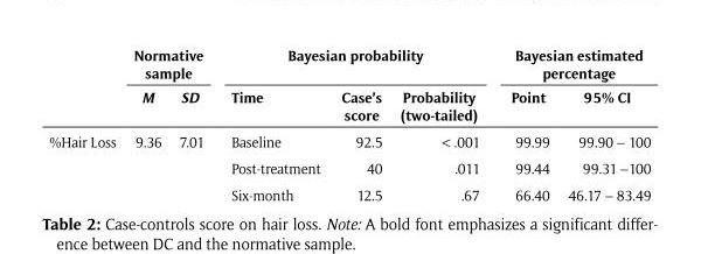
<table><thead><tr><td rowspan="2"></td><td colspan="2">Normative sample</td><td colspan="3">Bayesian probability</td><td colspan="2">Bayesian estimated percentage</td></tr><tr><td>M</td><td>SD</td><td>Time</td><td>Case’s score</td><td>Probability (two-tailed)</td><td>Point</td><td>95% CI</td></tr></thead><tbody><tr><td rowspan="3">%Hair Loss</td><td>9.36</td><td>7.01</td><td>Baseline</td><td>92.5</td><td>&lt; .001</td><td>99.99</td><td>99.90 – 100</td></tr><tr><td></td><td></td><td>Post-treatment</td><td>40</td><td>.011</td><td>99.44</td><td>99.31 –100</td></tr><tr><td></td><td></td><td>Six-month</td><td>12.5</td><td>.67</td><td>66.40</td><td>46.17 – 83.49</td></tr></tbody></table>